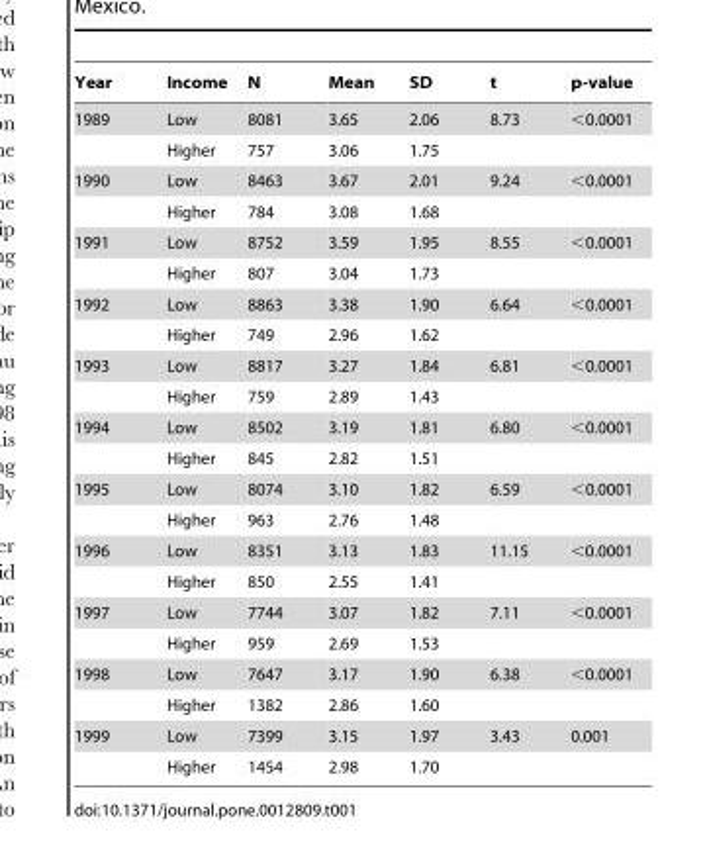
<table><thead><tr><td>Year</td><td>Income</td><td>N</td><td>Mean</td><td>SD</td><td>t</td><td>p-value</td></tr></thead><tbody><tr><td rowspan="2">1989</td><td>Low</td><td>8081</td><td>3.65</td><td>2.06</td><td>8.73</td><td>&lt;0.0001</td></tr><tr><td>Higher</td><td>757</td><td>3.06</td><td>1.75</td><td></td><td></td></tr><tr><td rowspan="2">1990</td><td>Low</td><td>8463</td><td>3.67</td><td>2.01</td><td>9.24</td><td>&lt;0.0001</td></tr><tr><td>Higher</td><td>784</td><td>3.08</td><td>1.68</td><td></td><td></td></tr><tr><td rowspan="2">1991</td><td>Low</td><td>8752</td><td>3.59</td><td>1.95</td><td>8.55</td><td>&lt;0.0001</td></tr><tr><td>Higher</td><td>807</td><td>3.04</td><td>1.73</td><td></td><td></td></tr><tr><td rowspan="2">1992</td><td>Low</td><td>8863</td><td>3.38</td><td>1.90</td><td>6.64</td><td>&lt;0.0001</td></tr><tr><td>Higher</td><td>749</td><td>2.96</td><td>1.62</td><td></td><td></td></tr><tr><td rowspan="2">1993</td><td>Low</td><td>8817</td><td>3.27</td><td>1.84</td><td>6.81</td><td>&lt;0.0001</td></tr><tr><td>Higher</td><td>759</td><td>2.89</td><td>1.43</td><td></td><td></td></tr><tr><td rowspan="2">1994</td><td>Low</td><td>8502</td><td>3.19</td><td>1.81</td><td>6.80</td><td>&lt;0.0001</td></tr><tr><td>Higher</td><td>845</td><td>2.82</td><td>1.51</td><td></td><td></td></tr><tr><td rowspan="2">1995</td><td>Low</td><td>8074</td><td>3.10</td><td>1.82</td><td>6.59</td><td>&lt;0.0001</td></tr><tr><td>Higher</td><td>963</td><td>2.76</td><td>1.48</td><td></td><td></td></tr><tr><td rowspan="2">1996</td><td>Low</td><td>8351</td><td>3.13</td><td>1.83</td><td>11.15</td><td>&lt;0.0001</td></tr><tr><td>Higher</td><td>850</td><td>2.55</td><td>1.41</td><td></td><td></td></tr><tr><td rowspan="2">1997</td><td>Low</td><td>7744</td><td>3.07</td><td>1.82</td><td>7.11</td><td>&lt;0.0001</td></tr><tr><td>Higher</td><td>959</td><td>2.69</td><td>1.53</td><td></td><td></td></tr><tr><td rowspan="2">1998</td><td>Low</td><td>7647</td><td>3.17</td><td>1.90</td><td>6.38</td><td>&lt;0.0001</td></tr><tr><td>Higher</td><td>1382</td><td>2.86</td><td>1.60</td><td></td><td></td></tr><tr><td rowspan="2">1999</td><td>Low</td><td>7399</td><td>3.15</td><td>1.97</td><td>3.43</td><td>0.001</td></tr><tr><td>Higher</td><td>1454</td><td>2.98</td><td>1.70</td><td></td><td></td></tr></tbody></table>